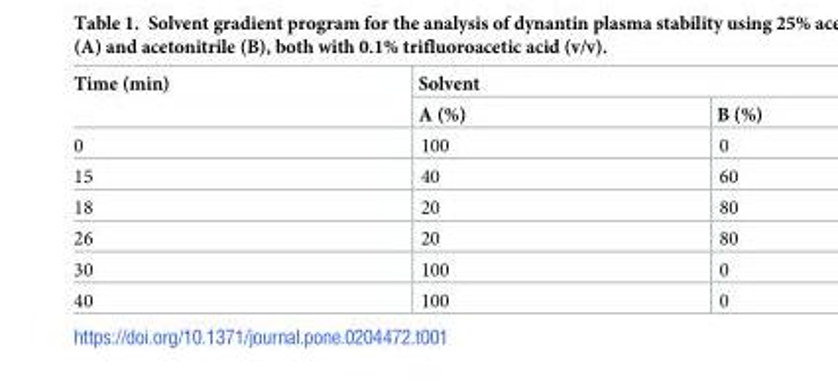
<table><thead><tr><td rowspan="2">Time (min)</td><td colspan="2">Solvent</td></tr><tr><td>A (%)</td><td>B (%)</td></tr></thead><tbody><tr><td>0</td><td>100</td><td>0</td></tr><tr><td>15</td><td>40</td><td>60</td></tr><tr><td>18</td><td>20</td><td>80</td></tr><tr><td>26</td><td>20</td><td>80</td></tr><tr><td>30</td><td>100</td><td>0</td></tr><tr><td>40</td><td>100</td><td>0</td></tr></tbody></table>